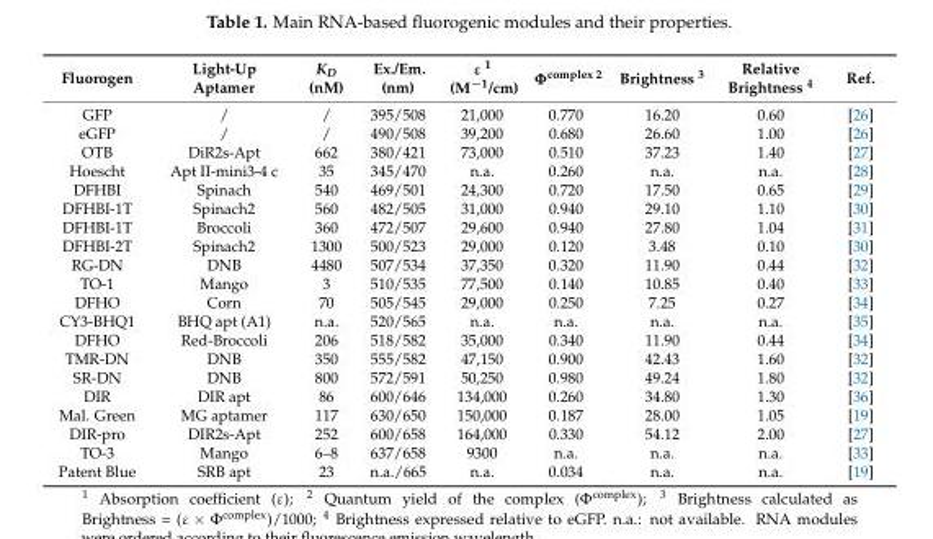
<table><thead><tr><td>Fluorogen</td><td>Light-Up Aptamer</td><td>K<sub>D</sub> (nM)</td><td>Ex./Em. (nm)</td><td>ε <sup>1</sup> (M<sup>−1</sup>/cm)</td><td>Φ<sup>complex 2</sup></td><td>Brightness <sup>3</sup></td><td>Relative Brightness <sup>4</sup></td><td>Ref.</td></tr></thead><tbody><tr><td>GFP</td><td>/</td><td>/</td><td>395/508</td><td>21,000</td><td>0.770</td><td>16.20</td><td>0.60</td><td>[26]</td></tr><tr><td>eGFP</td><td>/</td><td>/</td><td>490/508</td><td>39,200</td><td>0.680</td><td>26.60</td><td>1.00</td><td>[26]</td></tr><tr><td>OTB</td><td>DiR2s-Apt</td><td>662</td><td>380/421</td><td>73,000</td><td>0.510</td><td>37.23</td><td>1.40</td><td>[27]</td></tr><tr><td>Hoescht</td><td>Apt II-mini3-4 c</td><td>35</td><td>345/470</td><td>n.a.</td><td>0.260</td><td>n.a.</td><td>n.a.</td><td>[28]</td></tr><tr><td>DFHBI</td><td>Spinach</td><td>540</td><td>469/501</td><td>24,300</td><td>0.720</td><td>17.50</td><td>0.65</td><td>[29]</td></tr><tr><td>DFHBI-1T</td><td>Spinach2</td><td>560</td><td>482/505</td><td>31,000</td><td>0.940</td><td>29.10</td><td>1.10</td><td>[30]</td></tr><tr><td>DFHBI-1T</td><td>Broccoli</td><td>360</td><td>472/507</td><td>29,600</td><td>0.940</td><td>27.80</td><td>1.04</td><td>[31]</td></tr><tr><td>DFHBI-2T</td><td>Spinach2</td><td>1300</td><td>500/523</td><td>29,000</td><td>0.120</td><td>3.48</td><td>0.10</td><td>[30]</td></tr><tr><td>RG-DN</td><td>DNB</td><td>4480</td><td>507/534</td><td>37,350</td><td>0.320</td><td>11.90</td><td>0.44</td><td>[32]</td></tr><tr><td>TO-1</td><td>Mango</td><td>3</td><td>510/535</td><td>77,500</td><td>0.140</td><td>10.85</td><td>0.40</td><td>[33]</td></tr><tr><td>DFHO</td><td>Corn</td><td>70</td><td>505/545</td><td>29,000</td><td>0.250</td><td>7.25</td><td>0.27</td><td>[34]</td></tr><tr><td>CY3-BHQ1</td><td>BHQ apt (A1)</td><td>n.a.</td><td>520/565</td><td>n.a.</td><td>n.a.</td><td>n.a.</td><td>n.a.</td><td>[35]</td></tr><tr><td>DFHO</td><td>Red-Broccoli</td><td>206</td><td>518/582</td><td>35,000</td><td>0.340</td><td>11.90</td><td>0.44</td><td>[34]</td></tr><tr><td>TMR-DN</td><td>DNB</td><td>350</td><td>555/582</td><td>47,150</td><td>0.900</td><td>42.43</td><td>1.60</td><td>[32]</td></tr><tr><td>SR-DN</td><td>DNB</td><td>800</td><td>572/591</td><td>50,250</td><td>0.980</td><td>49.24</td><td>1.80</td><td>[32]</td></tr><tr><td>DIR</td><td>DIR apt</td><td>86</td><td>600/646</td><td>134,000</td><td>0.260</td><td>34.80</td><td>1.30</td><td>[36]</td></tr><tr><td>Mal. Green</td><td>MG aptamer</td><td>117</td><td>630/650</td><td>150,000</td><td>0.187</td><td>28.00</td><td>1.05</td><td>[19]</td></tr><tr><td>DIR-pro</td><td>DIR2s-Apt</td><td>252</td><td>600/658</td><td>164,000</td><td>0.330</td><td>54.12</td><td>2.00</td><td>[27]</td></tr><tr><td>TO-3</td><td>Mango</td><td>6–8</td><td>637/658</td><td>9300</td><td>n.a.</td><td>n.a.</td><td>n.a.</td><td>[33]</td></tr><tr><td>Patent Blue</td><td>SRB apt</td><td>23</td><td>n.a./665</td><td>n.a.</td><td>0.034</td><td>n.a.</td><td>n.a.</td><td>[19]</td></tr></tbody></table>